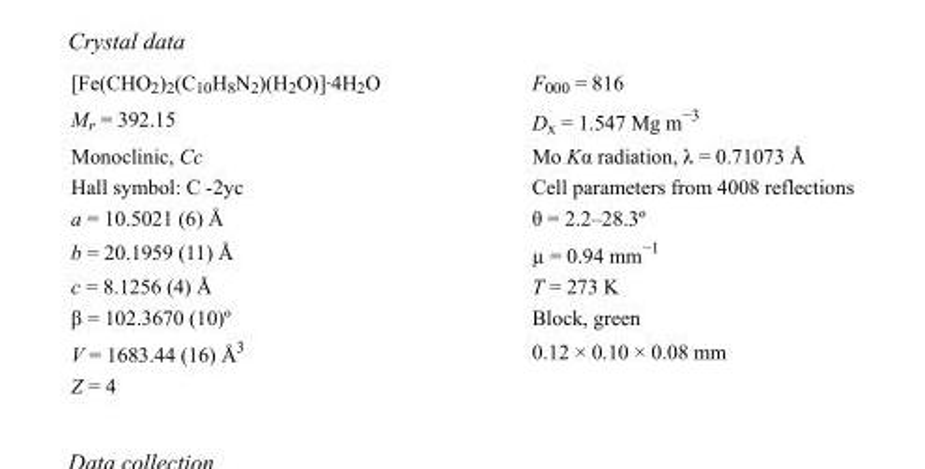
<table><tbody><tr><td>[Fe(CHO<sub>2</sub>)<sub>2</sub>(C<sub>10</sub>H<sub>8</sub>N<sub>2</sub>)(H<sub>2</sub>O)]·4H<sub>2</sub>O</td><td>F000 = 816</td></tr><tr><td>M<sub>r</sub> = 392.15</td><td>D<sub>x</sub> = 1.547 Mg m<sup>−3</sup></td></tr><tr><td>Monoclinic, Cc</td><td>Mo Kα radiation, λ = 0.71073 Å</td></tr><tr><td>Hall symbol: C -2yc</td><td>Cell parameters from 4008 reflections</td></tr><tr><td>a = 10.5021 (6) Å</td><td>θ = 2.2–28.3º</td></tr><tr><td>b = 20.1959 (11) Å</td><td>µ = 0.94 mm<sup>−1</sup></td></tr><tr><td>c = 8.1256 (4) Å</td><td>T = 273 K</td></tr><tr><td>β = 102.3670 (10)º</td><td>Block, green</td></tr><tr><td>V = 1683.44 (16) Å<sup>3</sup></td><td>0.12 × 0.10 × 0.08 mm</td></tr><tr><td>Z = 4</td><td></td></tr></tbody></table>